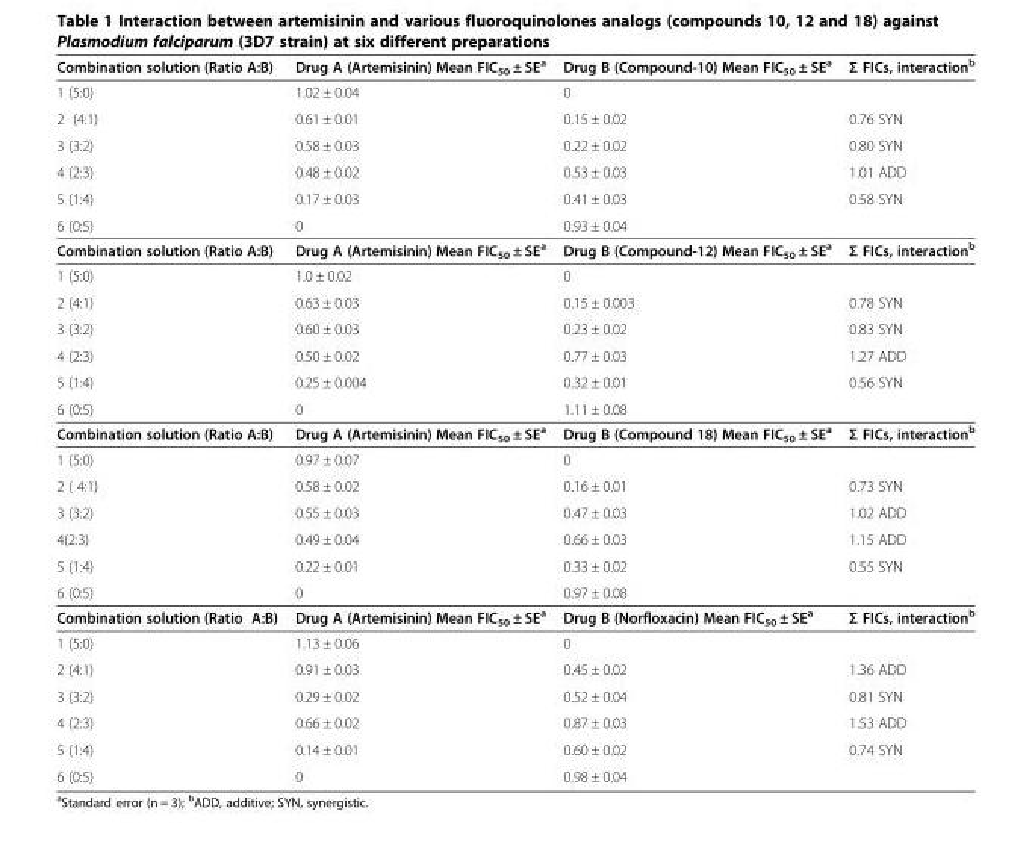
<table><thead><tr><td>Combination solution (Ratio A:B)</td><td>Drug A (Artemisinin) Mean FIC<sub>50</sub> ± SE<sup>a</sup></td><td>Drug B (Compound-10) Mean FIC<sub>50</sub> ± SE<sup>a</sup></td><td>Σ FICs, interaction<sup>b</sup></td></tr></thead><tbody><tr><td>1 (5:0)</td><td>1.02 ± 0.04</td><td>0</td><td></td></tr><tr><td>2 (4:1)</td><td>0.61 ± 0.01</td><td>0.15 ± 0.02</td><td>0.76 SYN</td></tr><tr><td>3 (3:2)</td><td>0.58 ± 0.03</td><td>0.22 ± 0.02</td><td>0.80 SYN</td></tr><tr><td>4 (2:3)</td><td>0.48 ± 0.02</td><td>0.53 ± 0.03</td><td>1.01 ADD</td></tr><tr><td>5 (1:4)</td><td>0.17 ± 0.03</td><td>0.41 ± 0.03</td><td>0.58 SYN</td></tr><tr><td>6 (0:5)</td><td>0</td><td>0.93 ± 0.04</td><td></td></tr><tr><td>Combination solution (Ratio A:B)</td><td>Drug A (Artemisinin) Mean FIC<sub>50</sub> ± SE<sup>a</sup></td><td>Drug B (Compound-12) Mean FIC<sub>50</sub> ± SE<sup>a</sup></td><td>Σ FICs, interaction<sup>b</sup></td></tr><tr><td>1 (5:0)</td><td>1.0 ± 0.02</td><td>0</td><td></td></tr><tr><td>2 (4:1)</td><td>0.63 ± 0.03</td><td>0.15 ± 0.003</td><td>0.78 SYN</td></tr><tr><td>3 (3:2)</td><td>0.60 ± 0.03</td><td>0.23 ± 0.02</td><td>0.83 SYN</td></tr><tr><td>4 (2:3)</td><td>0.50 ± 0.02</td><td>0.77 ± 0.03</td><td>1.27 ADD</td></tr><tr><td>5 (1:4)</td><td>0.25 ± 0.004</td><td>0.32 ± 0.01</td><td>0.56 SYN</td></tr><tr><td>6 (0:5)</td><td>0</td><td>1.11 ± 0.08</td><td></td></tr><tr><td>Combination solution (Ratio A:B)</td><td>Drug A (Artemisinin) Mean FIC<sub>50</sub> ± SE<sup>a</sup></td><td>Drug B (Compound 18) Mean FIC<sub>50</sub> ± SE<sup>a</sup></td><td>Σ FICs, interaction<sup>b</sup></td></tr><tr><td>1 (5:0)</td><td>0.97 ± 0.07</td><td>0</td><td></td></tr><tr><td>2 ( 4:1)</td><td>0.58 ± 0.02</td><td>0.16 ± 0.01</td><td>0.73 SYN</td></tr><tr><td>3 (3:2)</td><td>0.55 ± 0.03</td><td>0.47 ± 0.03</td><td>1.02 ADD</td></tr><tr><td>4(2:3)</td><td>0.49 ± 0.04</td><td>0.66 ± 0.03</td><td>1.15 ADD</td></tr><tr><td>5 (1:4)</td><td>0.22 ± 0.01</td><td>0.33 ± 0.02</td><td>0.55 SYN</td></tr><tr><td>6 (0:5)</td><td>0</td><td>0.97 ± 0.08</td><td></td></tr><tr><td>Combination solution (Ratio A:B)</td><td>Drug A (Artemisinin) Mean FIC<sub>50</sub> ± SE<sup>a</sup></td><td>Drug B (Norfloxacin) Mean FIC<sub>50</sub> ± SE<sup>a</sup></td><td>Σ FICs, interaction<sup>b</sup></td></tr><tr><td>1 (5:0)</td><td>1.13 ± 0.06</td><td>0</td><td></td></tr><tr><td>2 (4:1)</td><td>0.91 ± 0.03</td><td>0.45 ± 0.02</td><td>1.36 ADD</td></tr><tr><td>3 (3:2)</td><td>0.29 ± 0.02</td><td>0.52 ± 0.04</td><td>0.81 SYN</td></tr><tr><td>4 (2:3)</td><td>0.66 ± 0.02</td><td>0.87 ± 0.03</td><td>1.53 ADD</td></tr><tr><td>5 (1:4)</td><td>0.14 ± 0.01</td><td>0.60 ± 0.02</td><td>0.74 SYN</td></tr><tr><td>6 (0:5)</td><td>0</td><td>0.98 ± 0.04</td><td></td></tr></tbody></table>